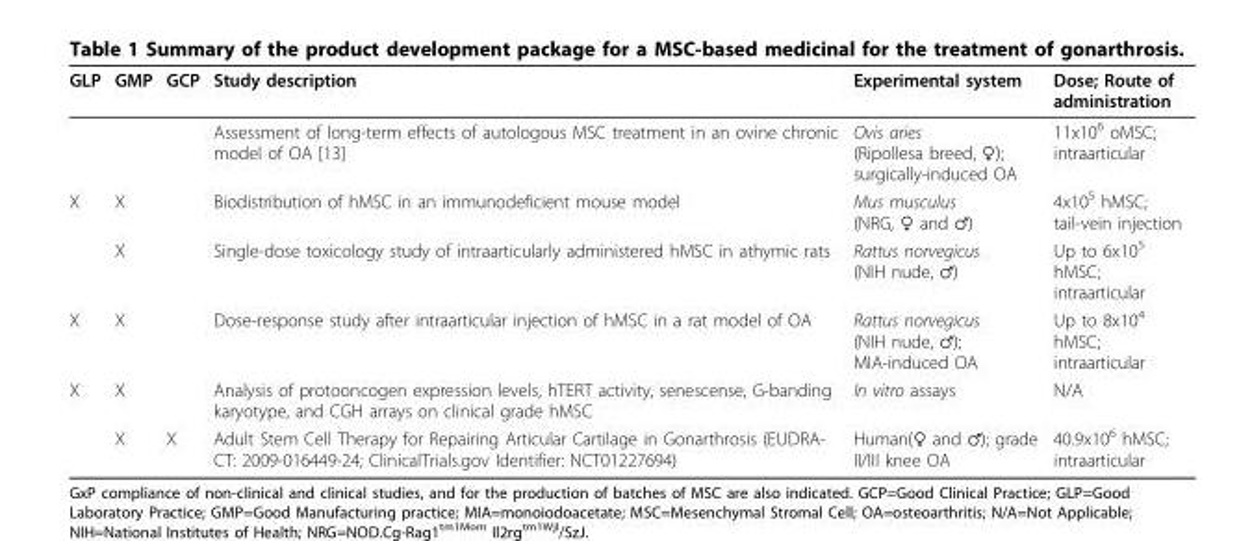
<table><thead><tr><td>GLP</td><td>GMP</td><td>GCP</td><td>Study description</td><td>Experimental system</td><td>Dose; Route of administration</td></tr></thead><tbody><tr><td></td><td></td><td></td><td>Assessment of long-term effects of autologous MSC treatment in an ovine chronic model of OA [13]</td><td>Ovis aries (Ripollesa breed, ♀); surgically-induced OA</td><td>11x10<sup>6</sup> oMSC; intraarticular</td></tr><tr><td rowspan="2">X</td><td>X</td><td></td><td>Biodistribution of hMSC in an immunodeficient mouse model</td><td>Mus musculus (NRG, ♀ and ♂)</td><td>4x10<sup>5</sup> hMSC; tail-vein injection</td></tr><tr><td>X</td><td></td><td>Single-dose toxicology study of intraarticularly administered hMSC in athymic rats</td><td>Rattus norvegicus (NIH nude, ♂)</td><td>Up to 6x10<sup>5</sup> hMSC; intraarticular</td></tr><tr><td>X</td><td>X</td><td></td><td>Dose-response study after intraarticular injection of hMSC in a rat model of OA</td><td>Rattus norvegicus (NIH nude, ♂); MIA-induced OA</td><td>Up to 8x10<sup>4</sup> hMSC; intraarticular</td></tr><tr><td rowspan="2">X</td><td>X</td><td></td><td>Analysis of protooncogen expression levels, hTERT activity, senescense, G-banding karyotype, and CGH arrays on clinical grade hMSC</td><td>In vitro assays</td><td>N/A</td></tr><tr><td>X</td><td>X</td><td>Adult Stem Cell Therapy for Repairing Articular Cartilage in Gonarthrosis (EUDRA- CT: 2009-016449-24; ClinicalTrials.gov Identifier: NCT01227694)</td><td>Human(♀ and ♂); grade II/III knee OA</td><td>40.9x10<sup>6</sup> hMSC; intraarticular</td></tr></tbody></table>